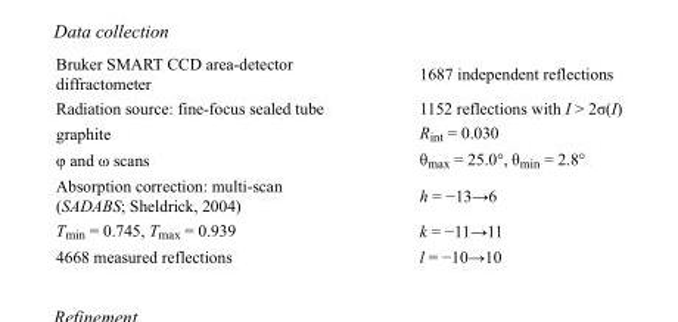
<table><tbody><tr><td>Bruker SMART CCD area-detector diffractometer</td><td>1687 independent reflections</td></tr><tr><td>Radiation source: fine-focus sealed tube</td><td>1152 reflections with I &gt; 2σ(I)</td></tr><tr><td>graphite</td><td>R<sub>int</sub> = 0.030</td></tr><tr><td>φ and ω scans</td><td>θ<sub>max</sub> = 25.0°, θ<sub>min</sub> = 2.8°</td></tr><tr><td>Absorption correction: multi-scan (SADABS; Sheldrick, 2004)</td><td>h = −13→6</td></tr><tr><td>T<sub>min</sub> = 0.745, T<sub>max</sub> = 0.939</td><td>k = −11→11</td></tr><tr><td>4668 measured reflections</td><td>l = −10→10</td></tr></tbody></table>